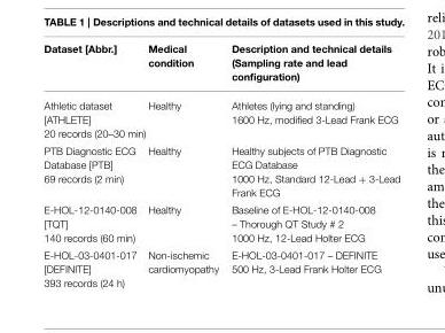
<table><thead><tr><td>Dataset [Abbr.]</td><td>Medical condition</td><td>Description and technical details (Sampling rate and lead configuration)</td></tr></thead><tbody><tr><td>Athletic dataset [ATHLETE] 20 records (20–30 min)</td><td>Healthy</td><td>Athletes (lying and standing) 1600 Hz, modified 3-Lead Frank ECG</td></tr><tr><td>PTB Diagnostic ECG Database [PTB] 69 records (2 min)</td><td>Healthy</td><td>Healthy subjects of PTB Diagnostic ECG Database 1000 Hz, Standard 12-Lead + 3-Lead Frank ECG</td></tr><tr><td>E-HOL-12-0140-008 [TQT] 140 records (60 min)</td><td>Healthy</td><td>Baseline of E-HOL-12-0140-008 – Thorough QT Study # 2 1000 Hz, 12-Lead Holter ECG</td></tr><tr><td>E-HOL-03-0401-017 [DEFINITE] 393 records (24 h)</td><td>Non-ischemic cardiomyopathy</td><td>E-HOL-03-0401-017 – DEFINITE 500 Hz, 3-Lead Frank Holter ECG</td></tr></tbody></table>